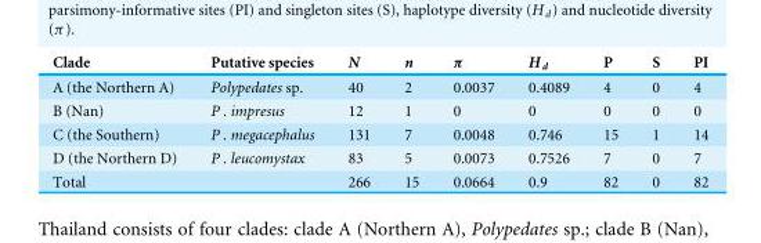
<table><thead><tr><td>Clade</td><td>Putative species</td><td>N</td><td>n</td><td>π</td><td>H <sub>d</sub></td><td>P</td><td>S</td><td>PI</td></tr></thead><tbody><tr><td>A (the Northern A)</td><td>Polypedates sp.</td><td>40</td><td>2</td><td>0.0037</td><td>0.4089</td><td>4</td><td>0</td><td>4</td></tr><tr><td>B (Nan)</td><td>P . impresus</td><td>12</td><td>1</td><td>0</td><td>0</td><td>0</td><td>0</td><td>0</td></tr><tr><td>C (the Southern)</td><td>P . megacephalus</td><td>131</td><td>7</td><td>0.0048</td><td>0.746</td><td>15</td><td>1</td><td>14</td></tr><tr><td>D (the Northern D)</td><td>P . leucomystax</td><td>83</td><td>5</td><td>0.0073</td><td>0.7526</td><td>7</td><td>0</td><td>7</td></tr><tr><td>Total</td><td></td><td>266</td><td>15</td><td>0.0664</td><td>0.9</td><td>82</td><td>0</td><td>82</td></tr></tbody></table>